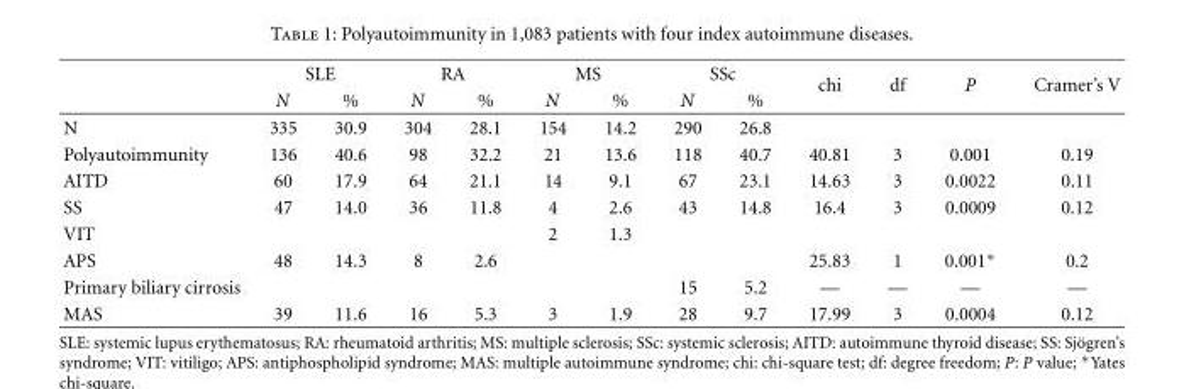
<table><thead><tr><td rowspan="2"></td><td colspan="2">SLE</td><td colspan="2">RA</td><td colspan="2">MS</td><td colspan="2">SSc</td><td rowspan="2">chi</td><td rowspan="2">df</td><td rowspan="2">P</td><td rowspan="2">Cramer’s V</td></tr><tr><td>N</td><td>%</td><td>N</td><td>%</td><td>N</td><td>%</td><td>N</td><td>%</td></tr></thead><tbody><tr><td>N</td><td>335</td><td>30.9</td><td>304</td><td>28.1</td><td>154</td><td>14.2</td><td>290</td><td>26.8</td><td></td><td></td><td></td><td></td></tr><tr><td>Polyautoimmunity</td><td>136</td><td>40.6</td><td>98</td><td>32.2</td><td>21</td><td>13.6</td><td>118</td><td>40.7</td><td>40.81</td><td>3</td><td>0.001</td><td>0.19</td></tr><tr><td>AITD</td><td>60</td><td>17.9</td><td>64</td><td>21.1</td><td>14</td><td>9.1</td><td>67</td><td>23.1</td><td>14.63</td><td>3</td><td>0.0022</td><td>0.11</td></tr><tr><td>SS</td><td>47</td><td>14.0</td><td>36</td><td>11.8</td><td>4</td><td>2.6</td><td>43</td><td>14.8</td><td>16.4</td><td>3</td><td>0.0009</td><td>0.12</td></tr><tr><td>VIT</td><td></td><td></td><td></td><td></td><td>2</td><td>1.3</td><td></td><td></td><td></td><td></td><td></td><td></td></tr><tr><td>APS</td><td>48</td><td>14.3</td><td>8</td><td>2.6</td><td></td><td></td><td></td><td></td><td>25.83</td><td>1</td><td>0.001∗</td><td>0.2</td></tr><tr><td>Primary biliary cirrosis</td><td></td><td></td><td></td><td></td><td></td><td></td><td>15</td><td>5.2</td><td>—</td><td>—</td><td>—</td><td>—</td></tr><tr><td>MAS</td><td>39</td><td>11.6</td><td>16</td><td>5.3</td><td>3</td><td>1.9</td><td>28</td><td>9.7</td><td>17.99</td><td>3</td><td>0.0004</td><td>0.12</td></tr></tbody></table>